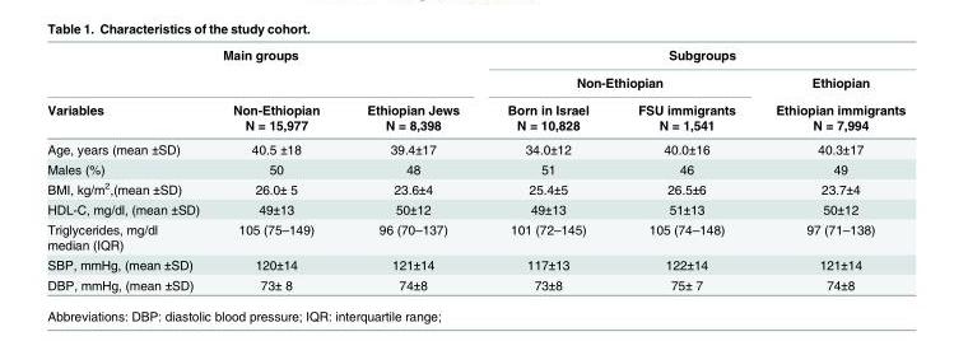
<table><thead><tr><td colspan="3">Main groups</td><td colspan="3">Subgroups</td></tr><tr><td rowspan="2">Variables</td><td rowspan="2">Non-Ethiopian N = 15,977</td><td rowspan="2">Ethiopian Jews N = 8,398</td><td colspan="2">Non-Ethiopian</td><td rowspan="2">Ethiopian Ethiopian immigrants N = 7,994</td></tr><tr><td>Born in Israel N = 10,828</td><td>FSU immigrants N = 1,541</td></tr></thead><tbody><tr><td>Age, years (mean ±SD)</td><td>40.5 ±18</td><td>39.4±17</td><td>34.0±12</td><td>40.0±16</td><td>40.3±17</td></tr><tr><td>Males (%)</td><td>50</td><td>48</td><td>51</td><td>46</td><td>49</td></tr><tr><td>BMI, kg/m<sup>2</sup>,(mean ±SD)</td><td>26.0± 5</td><td>23.6±4</td><td>25.4±5</td><td>26.5±6</td><td>23.7±4</td></tr><tr><td>HDL-C, mg/dl, (mean ±SD)</td><td>49±13</td><td>50±12</td><td>49±13</td><td>51±13</td><td>50±12</td></tr><tr><td>Triglycerides, mg/dl median (IQR)</td><td>105 (75–149)</td><td>96 (70–137)</td><td>101 (72–145)</td><td>105 (74–148)</td><td>97 (71–138)</td></tr><tr><td>SBP, mmHg, (mean ±SD)</td><td>120±14</td><td>121±14</td><td>117±13</td><td>122±14</td><td>121±14</td></tr><tr><td>DBP, mmHg, (mean ±SD)</td><td>73± 8</td><td>74±8</td><td>73±8</td><td>75± 7</td><td>74±8</td></tr></tbody></table>